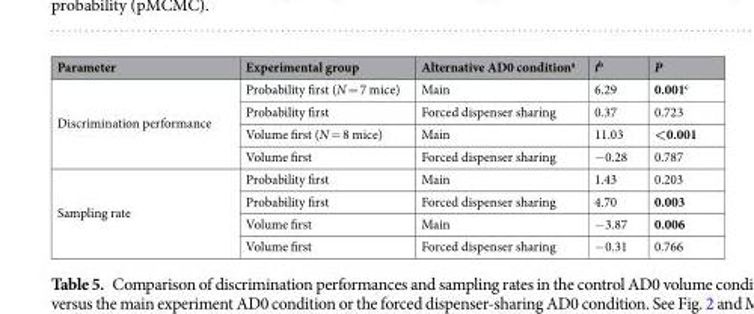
<table><thead><tr><td>Parameter</td><td>Experimental group</td><td>Alternative AD0 condition<sup>a</sup></td><td>t<sup>b</sup></td><td>P</td></tr></thead><tbody><tr><td rowspan="4">Discrimination performance</td><td>Probability first (N = 7 mice)</td><td>Main</td><td>6.29</td><td>0.001<sup>c</sup></td></tr><tr><td>Probability first</td><td>Forced dispenser sharing</td><td>0.37</td><td>0.723</td></tr><tr><td>Volume first (N = 8 mice)</td><td>Main</td><td>11.03</td><td>&lt;0.001</td></tr><tr><td>Volume first</td><td>Forced dispenser sharing</td><td>−0.28</td><td>0.787</td></tr><tr><td rowspan="4">Sampling rate</td><td>Probability first</td><td>Main</td><td>1.43</td><td>0.203</td></tr><tr><td>Probability first</td><td>Forced dispenser sharing</td><td>4.70</td><td>0.003</td></tr><tr><td>Volume first</td><td>Main</td><td>−3.87</td><td>0.006</td></tr><tr><td>Volume first</td><td>Forced dispenser sharing</td><td>−0.31</td><td>0.766</td></tr></tbody></table>